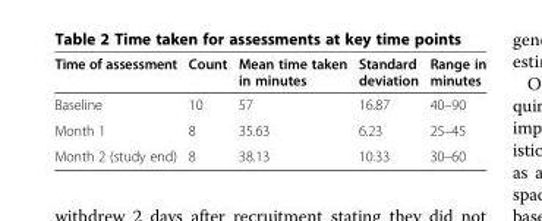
<table><thead><tr><td>Time of assessment</td><td>Count</td><td>Mean time taken in minutes</td><td>Standard deviation</td><td>Range in minutes</td></tr></thead><tbody><tr><td>Baseline</td><td>10</td><td>57</td><td>16.87</td><td>40–90</td></tr><tr><td>Month 1</td><td>8</td><td>35.63</td><td>6.23</td><td>25–45</td></tr><tr><td>Month 2 (study end)</td><td>8</td><td>38.13</td><td>10.33</td><td>30–60</td></tr></tbody></table>